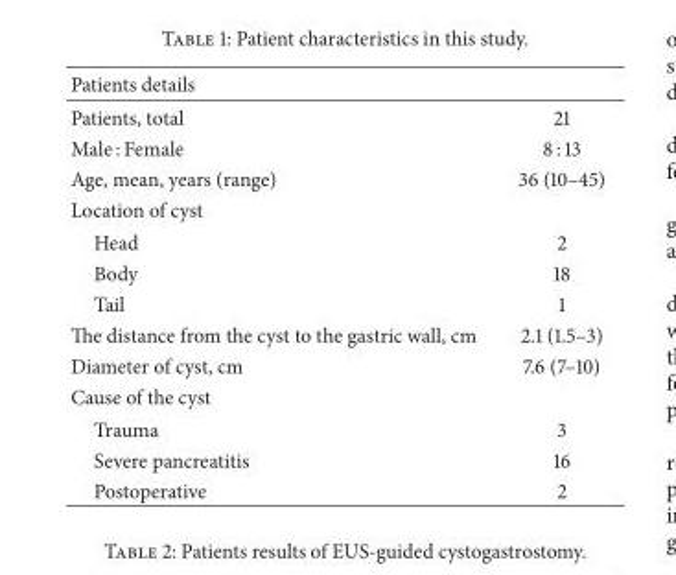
<table><thead><tr><td>Patients details</td><td></td></tr></thead><tbody><tr><td>Patients, total</td><td>21</td></tr><tr><td>Male : Female</td><td>8 : 13</td></tr><tr><td>Age, mean, years (range)</td><td>36 (10–45)</td></tr><tr><td colspan="2">Location of cyst</td></tr><tr><td>Head</td><td>2</td></tr><tr><td>Body</td><td>18</td></tr><tr><td>Tail</td><td>1</td></tr><tr><td>The distance from the cyst to the gastric wall, cm</td><td>2.1 (1.5–3)</td></tr><tr><td>Diameter of cyst, cm</td><td>7.6 (7–10)</td></tr><tr><td colspan="2">Cause of the cyst</td></tr><tr><td>Trauma</td><td>3</td></tr><tr><td>Severe pancreatitis</td><td>16</td></tr><tr><td>Postoperative</td><td>2</td></tr></tbody></table>